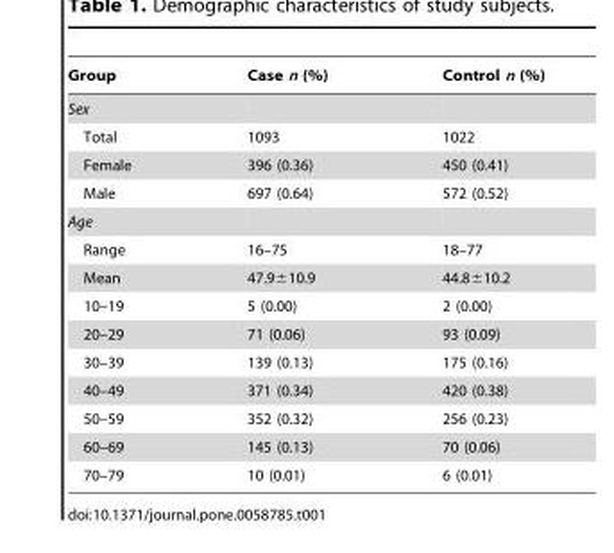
<table><thead><tr><td>Group</td><td>Case n (%)</td><td>Control n (%)</td></tr></thead><tbody><tr><td colspan="3">Sex</td></tr><tr><td>Total</td><td>1093</td><td>1022</td></tr><tr><td>Female</td><td>396 (0.36)</td><td>450 (0.41)</td></tr><tr><td>Male</td><td>697 (0.64)</td><td>572 (0.52)</td></tr><tr><td colspan="3">Age</td></tr><tr><td>Range</td><td>16–75</td><td>18–77</td></tr><tr><td>Mean</td><td>47.9±10.9</td><td>44.8±10.2</td></tr><tr><td>10–19</td><td>5 (0.00)</td><td>2 (0.00)</td></tr><tr><td>20–29</td><td>71 (0.06)</td><td>93 (0.09)</td></tr><tr><td>30–39</td><td>139 (0.13)</td><td>175 (0.16)</td></tr><tr><td>40–49</td><td>371 (0.34)</td><td>420 (0.38)</td></tr><tr><td>50–59</td><td>352 (0.32)</td><td>256 (0.23)</td></tr><tr><td>60–69</td><td>145 (0.13)</td><td>70 (0.06)</td></tr><tr><td>70–79</td><td>10 (0.01)</td><td>6 (0.01)</td></tr></tbody></table>